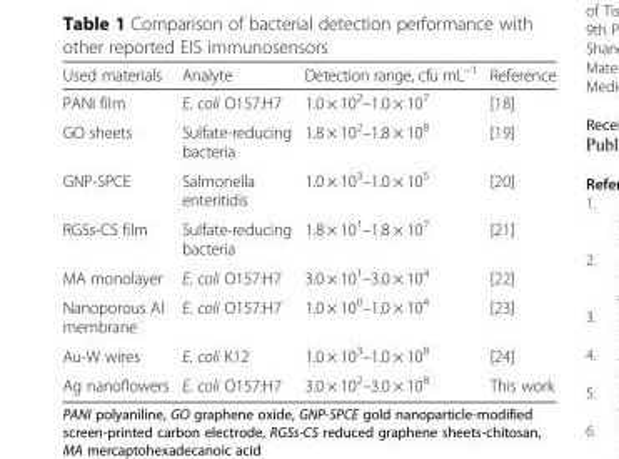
<table><thead><tr><td>Used materials</td><td>Analyte</td><td>Detection range, cfu mL<sup>−1</sup></td><td>Reference</td></tr></thead><tbody><tr><td>PANI film</td><td>E. coli O157:H7</td><td>1.0 × 10<sup>2</sup>–1.0 × 10<sup>7</sup></td><td>[18]</td></tr><tr><td>GO sheets</td><td>Sulfate-reducing bacteria</td><td>1.8 × 10<sup>2</sup>–1.8 × 10<sup>8</sup></td><td>[19]</td></tr><tr><td>GNP-SPCE</td><td>Salmonella enteritidis</td><td>1.0 × 10<sup>3</sup>–1.0 × 10<sup>5</sup></td><td>[20]</td></tr><tr><td>RGSs-CS film</td><td>Sulfate-reducing bacteria</td><td>1.8 × 10<sup>1</sup>–1.8 × 10<sup>7</sup></td><td>[21]</td></tr><tr><td>MA monolayer</td><td>E. coli O157:H7</td><td>3.0 × 10<sup>1</sup>–3.0 × 10<sup>4</sup></td><td>[22]</td></tr><tr><td>Nanoporous Al membrane</td><td>E. coli O157:H7</td><td>1.0 × 10<sup>0</sup>–1.0 × 10<sup>4</sup></td><td>[23]</td></tr><tr><td>Au-W wires</td><td>E. coli K12</td><td>1.0 × 10<sup>3</sup>–1.0 × 10<sup>8</sup></td><td>[24]</td></tr><tr><td>Ag nanoflowers</td><td>E. coli O157:H7</td><td>3.0 × 10<sup>2</sup>–3.0 × 10<sup>8</sup></td><td>This work</td></tr></tbody></table>